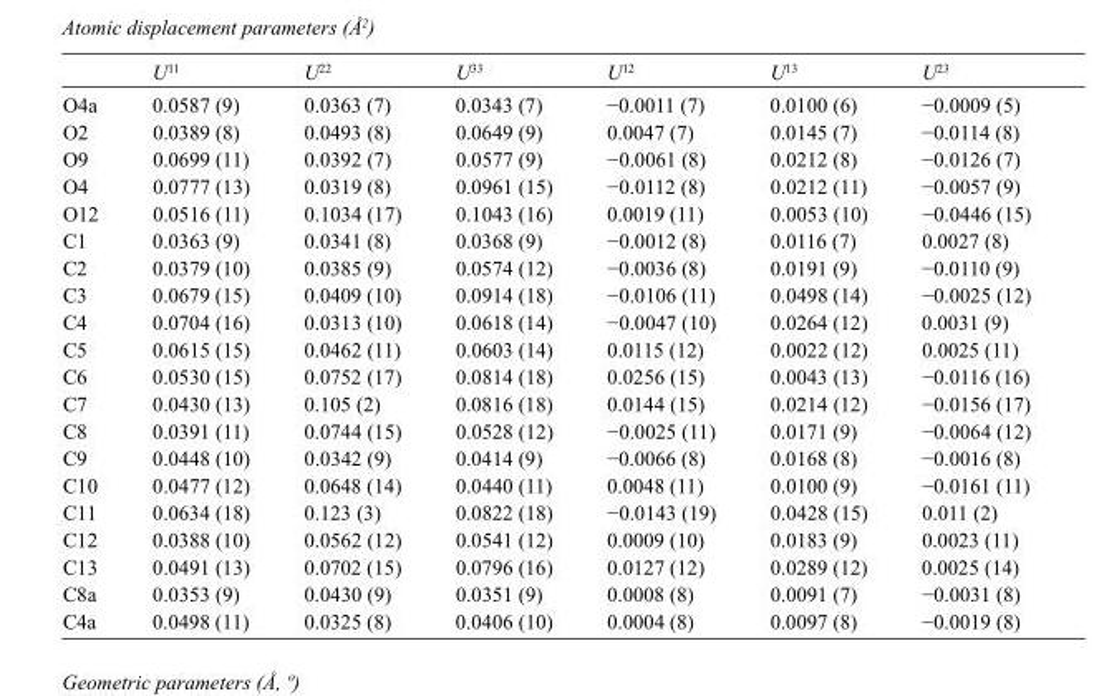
<table><thead><tr><td></td><td>U<sup>11</sup></td><td>U<sup>22</sup></td><td>U<sup>33</sup></td><td>U<sup>12</sup></td><td>U<sup>13</sup></td><td>U<sup>23</sup></td></tr></thead><tbody><tr><td>O4a</td><td>0.0587 (9)</td><td>0.0363 (7)</td><td>0.0343 (7)</td><td>−0.0011 (7)</td><td>0.0100 (6)</td><td>−0.0009 (5)</td></tr><tr><td>O2</td><td>0.0389 (8)</td><td>0.0493 (8)</td><td>0.0649 (9)</td><td>0.0047 (7)</td><td>0.0145 (7)</td><td>−0.0114 (8)</td></tr><tr><td>O9</td><td>0.0699 (11)</td><td>0.0392 (7)</td><td>0.0577 (9)</td><td>−0.0061 (8)</td><td>0.0212 (8)</td><td>−0.0126 (7)</td></tr><tr><td>O4</td><td>0.0777 (13)</td><td>0.0319 (8)</td><td>0.0961 (15)</td><td>−0.0112 (8)</td><td>0.0212 (11)</td><td>−0.0057 (9)</td></tr><tr><td>O12</td><td>0.0516 (11)</td><td>0.1034 (17)</td><td>0.1043 (16)</td><td>0.0019 (11)</td><td>0.0053 (10)</td><td>−0.0446 (15)</td></tr><tr><td>C1</td><td>0.0363 (9)</td><td>0.0341 (8)</td><td>0.0368 (9)</td><td>−0.0012 (8)</td><td>0.0116 (7)</td><td>0.0027 (8)</td></tr><tr><td>C2</td><td>0.0379 (10)</td><td>0.0385 (9)</td><td>0.0574 (12)</td><td>−0.0036 (8)</td><td>0.0191 (9)</td><td>−0.0110 (9)</td></tr><tr><td>C3</td><td>0.0679 (15)</td><td>0.0409 (10)</td><td>0.0914 (18)</td><td>−0.0106 (11)</td><td>0.0498 (14)</td><td>−0.0025 (12)</td></tr><tr><td>C4</td><td>0.0704 (16)</td><td>0.0313 (10)</td><td>0.0618 (14)</td><td>−0.0047 (10)</td><td>0.0264 (12)</td><td>0.0031 (9)</td></tr><tr><td>C5</td><td>0.0615 (15)</td><td>0.0462 (11)</td><td>0.0603 (14)</td><td>0.0115 (12)</td><td>0.0022 (12)</td><td>0.0025 (11)</td></tr><tr><td>C6</td><td>0.0530 (15)</td><td>0.0752 (17)</td><td>0.0814 (18)</td><td>0.0256 (15)</td><td>0.0043 (13)</td><td>−0.0116 (16)</td></tr><tr><td>C7</td><td>0.0430 (13)</td><td>0.105 (2)</td><td>0.0816 (18)</td><td>0.0144 (15)</td><td>0.0214 (12)</td><td>−0.0156 (17)</td></tr><tr><td>C8</td><td>0.0391 (11)</td><td>0.0744 (15)</td><td>0.0528 (12)</td><td>−0.0025 (11)</td><td>0.0171 (9)</td><td>−0.0064 (12)</td></tr><tr><td>C9</td><td>0.0448 (10)</td><td>0.0342 (9)</td><td>0.0414 (9)</td><td>−0.0066 (8)</td><td>0.0168 (8)</td><td>−0.0016 (8)</td></tr><tr><td>C10</td><td>0.0477 (12)</td><td>0.0648 (14)</td><td>0.0440 (11)</td><td>0.0048 (11)</td><td>0.0100 (9)</td><td>−0.0161 (11)</td></tr><tr><td>C11</td><td>0.0634 (18)</td><td>0.123 (3)</td><td>0.0822 (18)</td><td>−0.0143 (19)</td><td>0.0428 (15)</td><td>0.011 (2)</td></tr><tr><td>C12</td><td>0.0388 (10)</td><td>0.0562 (12)</td><td>0.0541 (12)</td><td>0.0009 (10)</td><td>0.0183 (9)</td><td>0.0023 (11)</td></tr><tr><td>C13</td><td>0.0491 (13)</td><td>0.0702 (15)</td><td>0.0796 (16)</td><td>0.0127 (12)</td><td>0.0289 (12)</td><td>0.0025 (14)</td></tr><tr><td>C8a</td><td>0.0353 (9)</td><td>0.0430 (9)</td><td>0.0351 (9)</td><td>0.0008 (8)</td><td>0.0091 (7)</td><td>−0.0031 (8)</td></tr><tr><td>C4a</td><td>0.0498 (11)</td><td>0.0325 (8)</td><td>0.0406 (10)</td><td>0.0004 (8)</td><td>0.0097 (8)</td><td>−0.0019 (8)</td></tr></tbody></table>